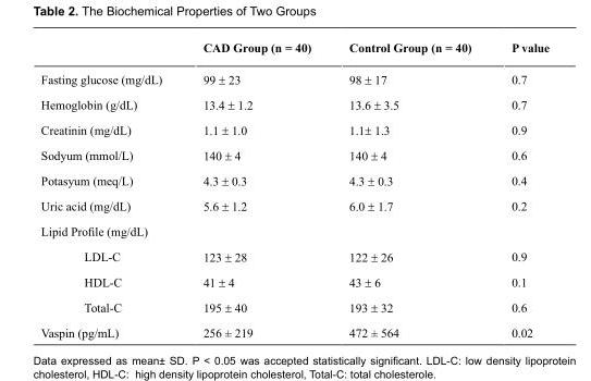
<table><thead><tr><td></td><td>CAD Group (n = 40)</td><td>Control Group (n = 40)</td><td>P value</td></tr></thead><tbody><tr><td>Fasting glucose (mg/dL)</td><td>99 ± 23</td><td>98 ± 17</td><td>0.7</td></tr><tr><td>Hemoglobin (g/dL)</td><td>13.4 ± 1.2</td><td>13.6 ± 3.5</td><td>0.7</td></tr><tr><td>Creatinin (mg/dL)</td><td>1.1 ± 1.0</td><td>1.1± 1.3</td><td>0.9</td></tr><tr><td>Sodyum (mmol/L)</td><td>140 ± 4</td><td>140 ± 4</td><td>0.6</td></tr><tr><td>Potasyum (meq/L)</td><td>4.3 ± 0.3</td><td>4.3 ± 0.3</td><td>0.4</td></tr><tr><td>Uric acid (mg/dL)</td><td>5.6 ± 1.2</td><td>6.0 ± 1.7</td><td>0.2</td></tr><tr><td colspan="4">Lipid Profile (mg/dL)</td></tr><tr><td>LDL-C</td><td>123 ± 28</td><td>122 ± 26</td><td>0.9</td></tr><tr><td>HDL-C</td><td>41 ± 4</td><td>43 ± 6</td><td>0.1</td></tr><tr><td>Total-C</td><td>195 ± 40</td><td>193 ± 32</td><td>0.6</td></tr><tr><td>Vaspin (pg/mL)</td><td>256 ± 219</td><td>472 ± 564</td><td>0.02</td></tr></tbody></table>